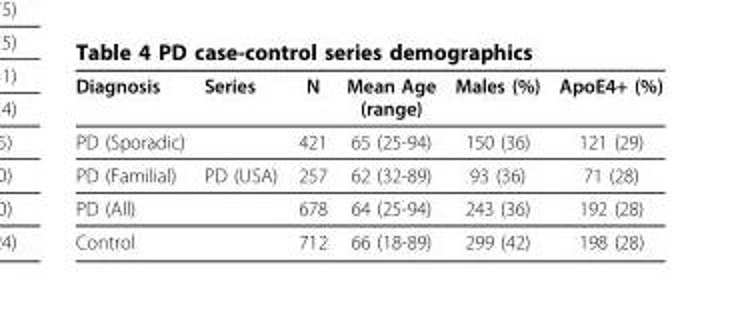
<table><thead><tr><td>Diagnosis</td><td>Series</td><td>N</td><td>Mean Age (range)</td><td>Males (%)</td><td>ApoE4+ (%)</td></tr></thead><tbody><tr><td>PD (Sporadic)</td><td></td><td>421</td><td>65 (25-94)</td><td>150 (36)</td><td>121 (29)</td></tr><tr><td>PD (Familial)</td><td>PD (USA)</td><td>257</td><td>62 (32-89)</td><td>93 (36)</td><td>71 (28)</td></tr><tr><td>PD (All)</td><td></td><td>678</td><td>64 (25-94)</td><td>243 (36)</td><td>192 (28)</td></tr><tr><td>Control</td><td></td><td>712</td><td>66 (18-89)</td><td>299 (42)</td><td>198 (28)</td></tr></tbody></table>